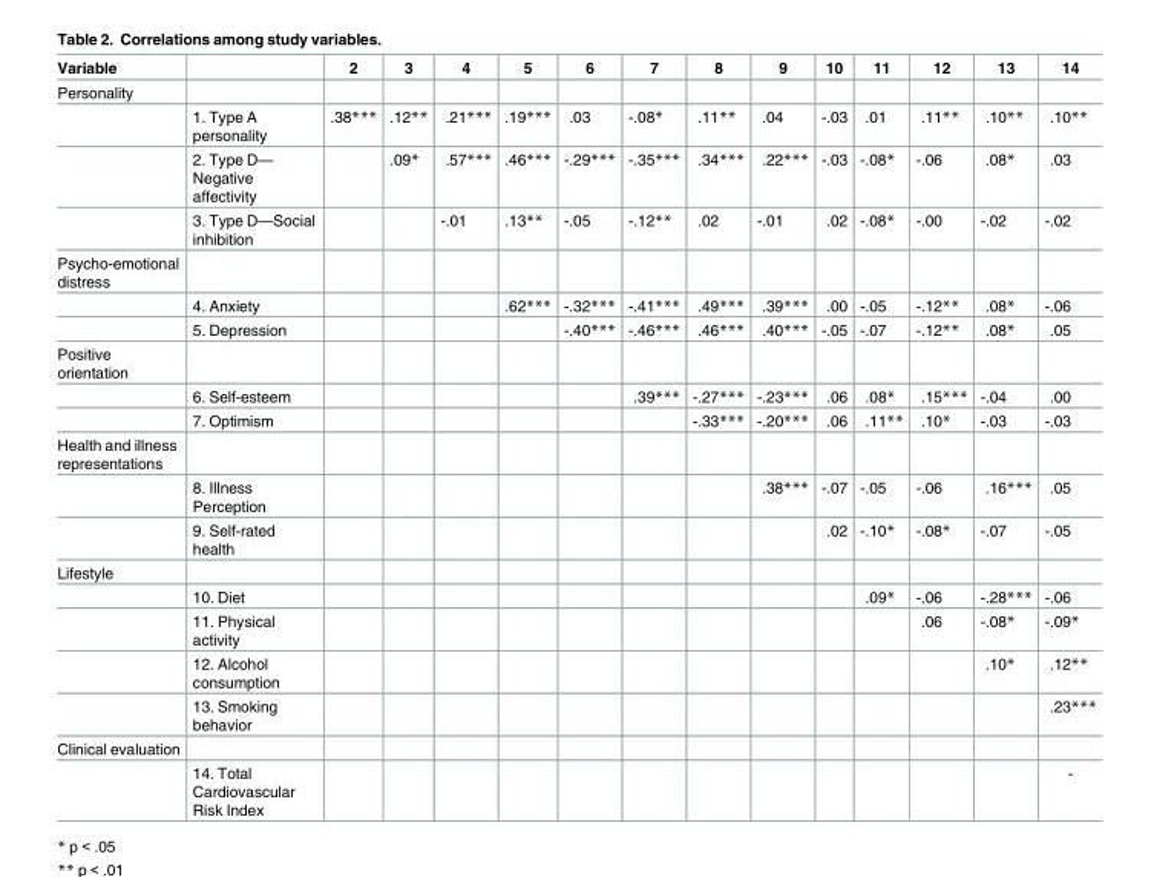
<table><thead><tr><td>Variable</td><td></td><td>2</td><td>3</td><td>4</td><td>5</td><td>6</td><td>7</td><td>8</td><td>9</td><td>10</td><td>11</td><td>12</td><td>13</td><td>14</td></tr></thead><tbody><tr><td colspan="15">Personality</td></tr><tr><td></td><td>1. Type A personality</td><td>.38***</td><td>.12**</td><td>.21***</td><td>.19***</td><td>.03</td><td>-.08*</td><td>.11**</td><td>.04</td><td>-.03</td><td>.01</td><td>.11**</td><td>.10**</td><td>.10**</td></tr><tr><td></td><td>2. Type D— Negative affectivity</td><td></td><td>.09*</td><td>.57***</td><td>.46***</td><td>-.29***</td><td>-.35***</td><td>.34***</td><td>.22***</td><td>-.03</td><td>-.08*</td><td>-.06</td><td>.08*</td><td>.03</td></tr><tr><td></td><td>3. Type D—Social inhibition</td><td></td><td></td><td>-.01</td><td>.13**</td><td>-.05</td><td>-.12**</td><td>.02</td><td>-.01</td><td>.02</td><td>-.08*</td><td>-.00</td><td>-.02</td><td>-.02</td></tr><tr><td colspan="15">Psycho-emotional distress</td></tr><tr><td></td><td>4. Anxiety</td><td></td><td></td><td></td><td>.62***</td><td>-.32***</td><td>-.41***</td><td>.49***</td><td>.39***</td><td>.00</td><td>-.05</td><td>-.12**</td><td>.08*</td><td>-.06</td></tr><tr><td></td><td>5. Depression</td><td></td><td></td><td></td><td></td><td>-.40***</td><td>-.46***</td><td>.46***</td><td>.40***</td><td>-.05</td><td>-.07</td><td>-.12**</td><td>.08*</td><td>.05</td></tr><tr><td colspan="15">Positive orientation</td></tr><tr><td></td><td>6. Self-esteem</td><td></td><td></td><td></td><td></td><td></td><td>.39***</td><td>-.27***</td><td>-.23***</td><td>.06</td><td>.08*</td><td>.15***</td><td>-.04</td><td>.00</td></tr><tr><td></td><td>7. Optimism</td><td></td><td></td><td></td><td></td><td></td><td></td><td>-.33***</td><td>-.20***</td><td>.06</td><td>.11**</td><td>.10*</td><td>-.03</td><td>-.03</td></tr><tr><td colspan="15">Health and illness representations</td></tr><tr><td></td><td>8. Illness Perception</td><td></td><td></td><td></td><td></td><td></td><td></td><td></td><td>.38***</td><td>-.07</td><td>-.05</td><td>-.06</td><td>.16***</td><td>.05</td></tr><tr><td></td><td>9. Self-rated health</td><td></td><td></td><td></td><td></td><td></td><td></td><td></td><td></td><td>.02</td><td>-.10*</td><td>-.08*</td><td>-.07</td><td>-.05</td></tr><tr><td colspan="15">Lifestyle</td></tr><tr><td></td><td>10. Diet</td><td></td><td></td><td></td><td></td><td></td><td></td><td></td><td></td><td></td><td>.09*</td><td>-.06</td><td>-.28***</td><td>-.06</td></tr><tr><td></td><td>11. Physical activity</td><td></td><td></td><td></td><td></td><td></td><td></td><td></td><td></td><td></td><td></td><td>.06</td><td>-.08*</td><td>-.09*</td></tr><tr><td></td><td>12. Alcohol consumption</td><td></td><td></td><td></td><td></td><td></td><td></td><td></td><td></td><td></td><td></td><td></td><td>.10*</td><td>.12**</td></tr><tr><td></td><td>13. Smoking behavior</td><td></td><td></td><td></td><td></td><td></td><td></td><td></td><td></td><td></td><td></td><td></td><td></td><td>.23***</td></tr><tr><td colspan="15">Clinical evaluation</td></tr><tr><td></td><td>14. Total Cardiovascular Risk Index</td><td></td><td></td><td></td><td></td><td></td><td></td><td></td><td></td><td></td><td></td><td></td><td></td><td>-</td></tr></tbody></table>